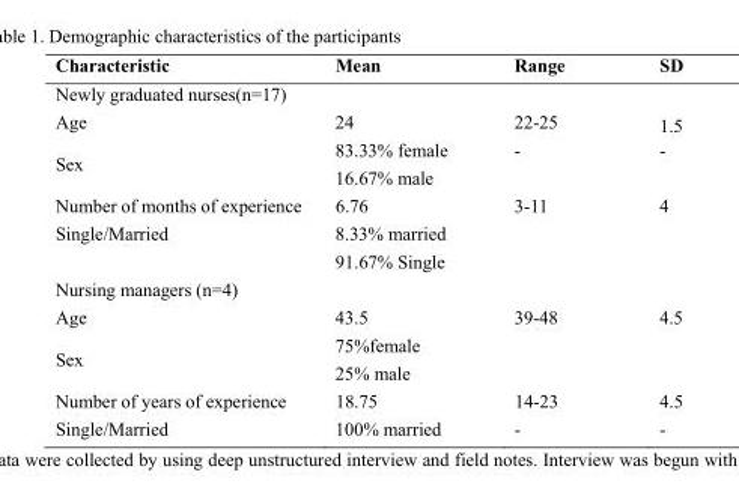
<table><thead><tr><td>Characteristic</td><td>Mean</td><td>Range</td><td>SD</td></tr></thead><tbody><tr><td colspan="4">Newly graduated nurses(n=17)</td></tr><tr><td>Age</td><td>24</td><td>22-25</td><td>1.5</td></tr><tr><td rowspan="2">Sex</td><td>83.33% female</td><td>-</td><td>-</td></tr><tr><td colspan="3">16.67% male</td></tr><tr><td>Number of months of experience</td><td>6.76</td><td>3-11</td><td>4</td></tr><tr><td rowspan="2">Single/Married</td><td colspan="3">8.33% married</td></tr><tr><td colspan="3">91.67% Single</td></tr><tr><td colspan="4">Nursing managers (n=4)</td></tr><tr><td>Age</td><td>43.5</td><td>39-48</td><td>4.5</td></tr><tr><td rowspan="2">Sex</td><td colspan="3">75%female</td></tr><tr><td colspan="3">25% male</td></tr><tr><td>Number of years of experience</td><td>18.75</td><td>14-23</td><td>4.5</td></tr><tr><td>Single/Married</td><td>100% married</td><td>-</td><td>-</td></tr></tbody></table>